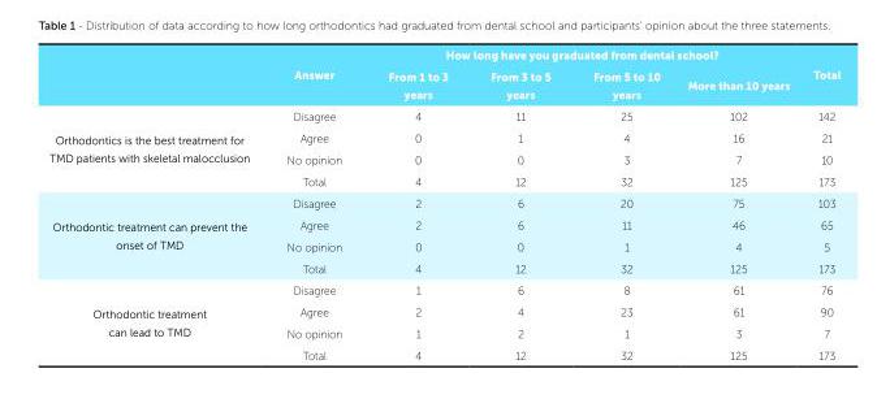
<table><thead><tr><td rowspan="2"></td><td rowspan="2">Answer</td><td colspan="4">How long have you graduated from dental school?</td><td rowspan="2">Total</td></tr><tr><td>From 1 to 3 years</td><td>From 3 to 5 years</td><td>From 5 to 10 years</td><td>More than 10 years</td></tr></thead><tbody><tr><td rowspan="4">Orthodontics is the best treatment for TMD patients with skeletal malocclusion</td><td>Disagree</td><td>4</td><td>11</td><td>25</td><td>102</td><td>142</td></tr><tr><td>Agree</td><td>0</td><td>1</td><td>4</td><td>16</td><td>21</td></tr><tr><td>No opinion</td><td>0</td><td>0</td><td>3</td><td>7</td><td>10</td></tr><tr><td>Total</td><td>4</td><td>12</td><td>32</td><td>125</td><td>173</td></tr><tr><td rowspan="4">Orthodontic treatment can prevent the onset of TMD</td><td>Disagree</td><td>2</td><td>6</td><td>20</td><td>75</td><td>103</td></tr><tr><td>Agree</td><td>2</td><td>6</td><td>11</td><td>46</td><td>65</td></tr><tr><td>No opinion</td><td>0</td><td>0</td><td>1</td><td>4</td><td>5</td></tr><tr><td>Total</td><td>4</td><td>12</td><td>32</td><td>125</td><td>173</td></tr><tr><td rowspan="4">Orthodontic treatment can lead to TMD</td><td>Disagree</td><td>1</td><td>6</td><td>8</td><td>61</td><td>76</td></tr><tr><td>Agree</td><td>2</td><td>4</td><td>23</td><td>61</td><td>90</td></tr><tr><td>No opinion</td><td>1</td><td>2</td><td>1</td><td>3</td><td>7</td></tr><tr><td>Total</td><td>4</td><td>12</td><td>32</td><td>125</td><td>173</td></tr></tbody></table>